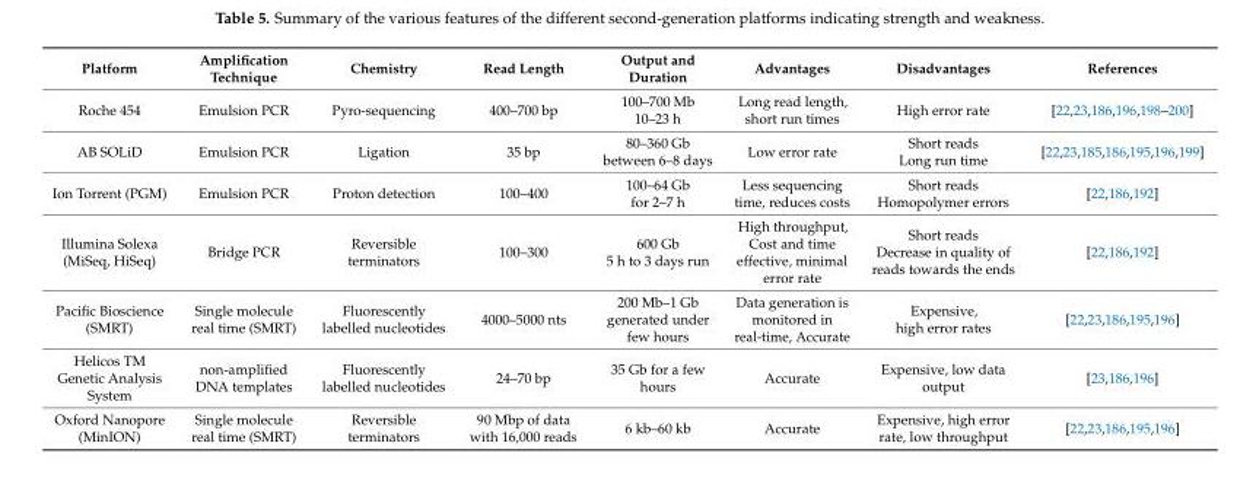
<table><thead><tr><td>Platform</td><td>Amplification Technique</td><td>Chemistry</td><td>Read Length</td><td>Output and Duration</td><td>Advantages</td><td>Disadvantages</td><td>References</td></tr></thead><tbody><tr><td>Roche 454</td><td>Emulsion PCR</td><td>Pyro-sequencing</td><td>400–700 bp</td><td>100–700 Mb 10–23 h</td><td>Long read length, short run times</td><td>High error rate</td><td>[22,23,186,196,198–200]</td></tr><tr><td>AB SOLiD</td><td>Emulsion PCR</td><td>Ligation</td><td>35 bp</td><td>80–360 Gb between 6–8 days</td><td>Low error rate</td><td>Short reads Long run time</td><td>[22,23,185,186,195,196,199]</td></tr><tr><td>Ion Torrent (PGM)</td><td>Emulsion PCR</td><td>Proton detection</td><td>100–400</td><td>100–64 Gb for 2–7 h</td><td>Less sequencing time, reduces costs</td><td>Short reads Homopolymer errors</td><td>[22,186,192]</td></tr><tr><td>Illumina Solexa (MiSeq, HiSeq)</td><td>Bridge PCR</td><td>Reversible terminators</td><td>100–300</td><td>600 Gb 5 h to 3 days run</td><td>High throughput, Cost and time effective, minimal error rate</td><td>Short reads Decrease in quality of reads towards the ends</td><td>[22,186,192]</td></tr><tr><td>Pacific Bioscience (SMRT)</td><td>Single molecule real time (SMRT)</td><td>Fluorescently labelled nucleotides</td><td>4000–5000 nts</td><td>200 Mb–1 Gb generated under few hours</td><td>Data generation is monitored in real-time, Accurate</td><td>Expensive, high error rates</td><td>[22,23,186,195,196]</td></tr><tr><td>Helicos TM Genetic Analysis System</td><td>non-amplified DNA templates</td><td>Fluorescently labelled nucleotides</td><td>24–70 bp</td><td>35 Gb for a few hours</td><td>Accurate</td><td>Expensive, low data output</td><td>[23,186,196]</td></tr><tr><td>Oxford Nanopore (MinION)</td><td>Single molecule real time (SMRT)</td><td>Reversible terminators</td><td>90 Mbp of data with 16,000 reads</td><td>6 kb–60 kb</td><td>Accurate</td><td>Expensive, high error rate, low throughput</td><td>[22,23,186,195,196]</td></tr></tbody></table>